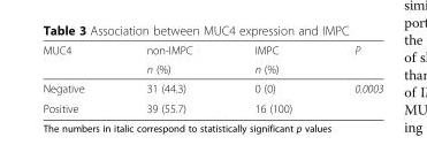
<table><thead><tr><td rowspan="2">MUC4</td><td rowspan="2">non-IMPC n (%)</td><td rowspan="2">IMPC n (%)</td><td rowspan="2">P</td></tr><tr></tr></thead><tbody><tr><td>Negative</td><td>31 (44.3)</td><td>0 (0)</td><td>0.0003</td></tr><tr><td>Positive</td><td>39 (55.7)</td><td>16 (100)</td><td></td></tr></tbody></table>